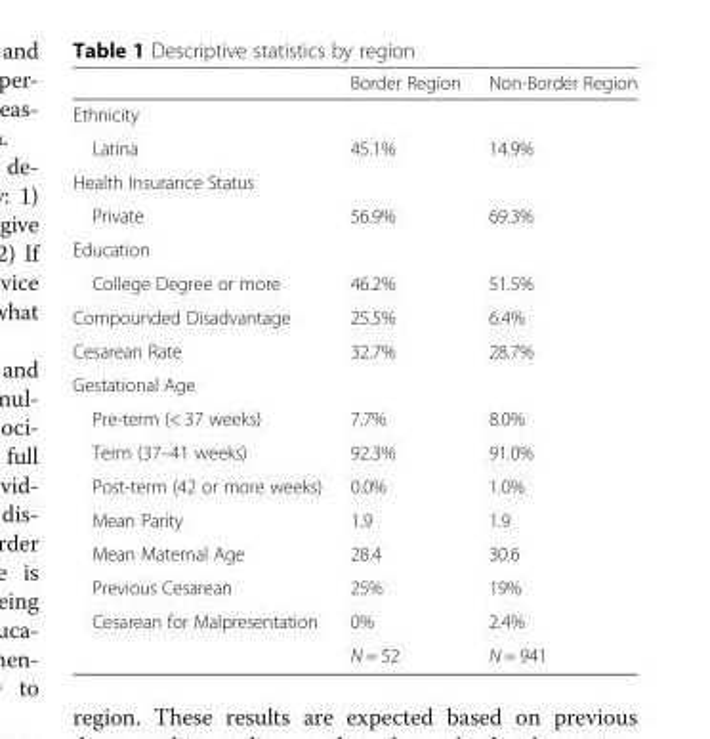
<table><thead><tr><td></td><td>Border Region</td><td>Non-Border Region</td></tr></thead><tbody><tr><td colspan="3">Ethnicity</td></tr><tr><td>Latina</td><td>45.1%</td><td>14.9%</td></tr><tr><td colspan="3">Health Insurance Status</td></tr><tr><td>Private</td><td>56.9%</td><td>69.3%</td></tr><tr><td colspan="3">Education</td></tr><tr><td>College Degree or more</td><td>46.2%</td><td>51.5%</td></tr><tr><td>Compounded Disadvantage</td><td>25.5%</td><td>6.4%</td></tr><tr><td>Cesarean Rate</td><td>32.7%</td><td>28.7%</td></tr><tr><td colspan="3">Gestational Age</td></tr><tr><td>Pre-term (&lt; 37 weeks)</td><td>7.7%</td><td>8.0%</td></tr><tr><td>Term (37–41 weeks)</td><td>92.3%</td><td>91.0%</td></tr><tr><td>Post-term (42 or more weeks)</td><td>0.0%</td><td>1.0%</td></tr><tr><td>Mean Parity</td><td>1.9</td><td>1.9</td></tr><tr><td>Mean Maternal Age</td><td>28.4</td><td>30.6</td></tr><tr><td>Previous Cesarean</td><td>25%</td><td>19%</td></tr><tr><td rowspan="2">Cesarean for Malpresentation</td><td>0%</td><td>2.4%</td></tr><tr><td>N = 52</td><td>N = 941</td></tr></tbody></table>